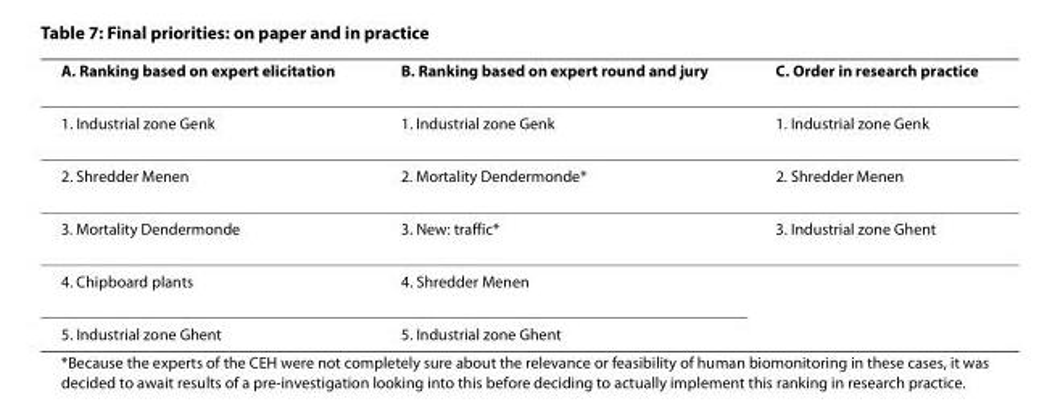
<table><thead><tr><td>A. Ranking based on expert elicitation</td><td>B. Ranking based on expert round and jury</td><td>C. Order in research practice</td></tr></thead><tbody><tr><td>1. Industrial zone Genk</td><td>1. Industrial zone Genk</td><td>1. Industrial zone Genk</td></tr><tr><td>2. Shredder Menen</td><td>2. Mortality Dendermonde*</td><td>2. Shredder Menen</td></tr><tr><td>3. Mortality Dendermonde</td><td>3. New: traffic*</td><td>3. Industrial zone Ghent</td></tr><tr><td>4. Chipboard plants</td><td>4. Shredder Menen</td><td></td></tr><tr><td>5. Industrial zone Ghent</td><td>5. Industrial zone Ghent</td><td></td></tr></tbody></table>